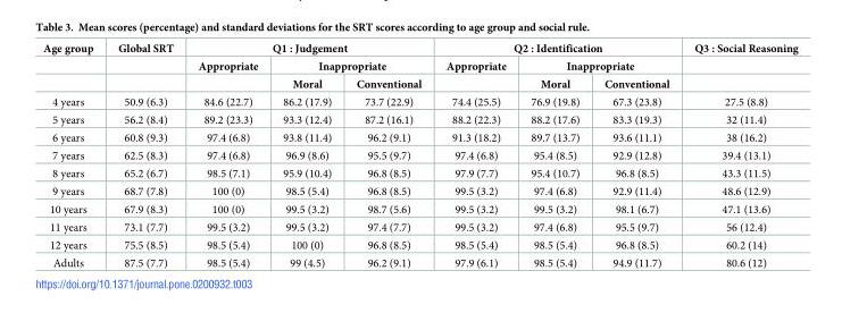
<table><thead><tr><td rowspan="3">Age group</td><td rowspan="3">Global SRT</td><td colspan="3">Q1 : Judgement</td><td colspan="3">Q2 : Identification</td><td rowspan="3">Q3 : Social Reasoning</td></tr><tr><td rowspan="2">Appropriate</td><td colspan="2">Inappropriate</td><td rowspan="2">Appropriate</td><td colspan="2">Inappropriate</td></tr><tr><td>Moral</td><td>Conventional</td><td>Moral</td><td>Conventional</td></tr></thead><tbody><tr><td>4 years</td><td>50.9 (6.3)</td><td>84.6 (22.7)</td><td>86.2 (17.9)</td><td>73.7 (22.9)</td><td>74.4 (25.5)</td><td>76.9 (19.8)</td><td>67.3 (23.8)</td><td>27.5 (8.8)</td></tr><tr><td>5 years</td><td>56.2 (8.4)</td><td>89.2 (23.3)</td><td>93.3 (12.4)</td><td>87.2 (16.1)</td><td>88.2 (22.3)</td><td>88.2 (17.6)</td><td>83.3 (19.3)</td><td>32 (11.4)</td></tr><tr><td>6 years</td><td>60.8 (9.3)</td><td>97.4 (6.8)</td><td>93.8 (11.4)</td><td>96.2 (9.1)</td><td>91.3 (18.2)</td><td>89.7 (13.7)</td><td>93.6 (11.1)</td><td>38 (16.2)</td></tr><tr><td>7 years</td><td>62.5 (8.3)</td><td>97.4 (6.8)</td><td>96.9 (8.6)</td><td>95.5 (9.7)</td><td>97.4 (6.8)</td><td>95.4 (8.5)</td><td>92.9 (12.8)</td><td>39.4 (13.1)</td></tr><tr><td>8 years</td><td>65.2 (6.7)</td><td>98.5 (7.1)</td><td>95.9 (10.4)</td><td>96.8 (8.5)</td><td>97.9 (7.7)</td><td>95.4 (10.7)</td><td>96.8 (8.5)</td><td>43.3 (11.5)</td></tr><tr><td>9 years</td><td>68.7 (7.8)</td><td>100 (0)</td><td>98.5 (5.4)</td><td>96.8 (8.5)</td><td>99.5 (3.2)</td><td>97.4 (6.8)</td><td>92.9 (11.4)</td><td>48.6 (12.9)</td></tr><tr><td>10 years</td><td>67.9 (8.3)</td><td>100 (0)</td><td>99.5 (3.2)</td><td>98.7 (5.6)</td><td>99.5 (3.2)</td><td>99.5 (3.2)</td><td>98.1 (6.7)</td><td>47.1 (13.6)</td></tr><tr><td>11 years</td><td>73.1 (7.7)</td><td>99.5 (3.2)</td><td>99.5 (3.2)</td><td>97.4 (7.7)</td><td>99.5 (3.2)</td><td>97.4 (6.8)</td><td>95.5 (9.7)</td><td>56 (12.4)</td></tr><tr><td>12 years</td><td>75.5 (8.5)</td><td>98.5 (5.4)</td><td>100 (0)</td><td>96.8 (8.5)</td><td>98.5 (5.4)</td><td>98.5 (5.4)</td><td>96.8 (8.5)</td><td>60.2 (14)</td></tr><tr><td>Adults</td><td>87.5 (7.7)</td><td>98.5 (5.4)</td><td>99 (4.5)</td><td>96.2 (9.1)</td><td>97.9 (6.1)</td><td>98.5 (5.4)</td><td>94.9 (11.7)</td><td>80.6 (12)</td></tr></tbody></table>